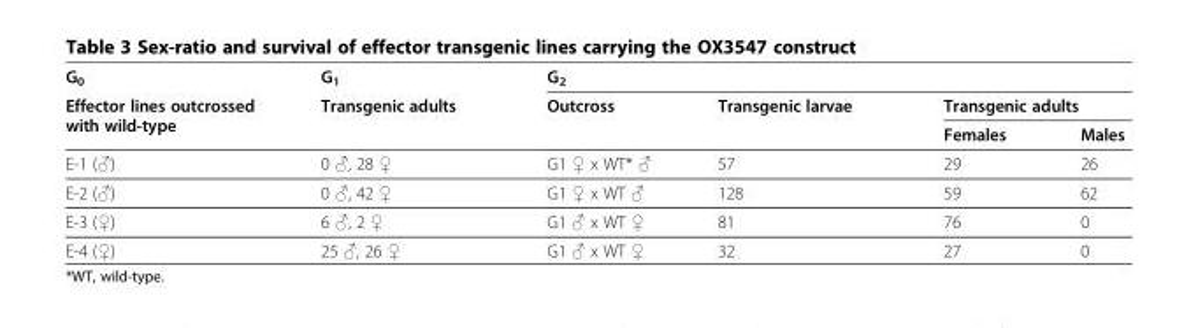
<table><thead><tr><td rowspan="3">G<sub>0</sub> Effector lines outcrossed with wild-type</td><td rowspan="3">G<sub>1</sub> Transgenic adults</td><td colspan="4">G<sub>2</sub></td></tr><tr><td rowspan="2">Outcross</td><td rowspan="2">Transgenic larvae</td><td colspan="2">Transgenic adults</td></tr><tr><td>Females</td><td>Males</td></tr></thead><tbody><tr><td>E-1 (♂)</td><td>0 ♂, 28 ♀</td><td>G1 ♀ x WT* ♂</td><td>57</td><td>29</td><td>26</td></tr><tr><td>E-2 (♂)</td><td>0 ♂, 42 ♀</td><td>G1 ♀ x WT ♂</td><td>128</td><td>59</td><td>62</td></tr><tr><td>E-3 (♀)</td><td>6 ♂, 2 ♀</td><td>G1 ♂ x WT ♀</td><td>81</td><td>76</td><td>0</td></tr><tr><td>E-4 (♀)</td><td>25 ♂, 26 ♀</td><td>G1 ♂ x WT ♀</td><td>32</td><td>27</td><td>0</td></tr></tbody></table>